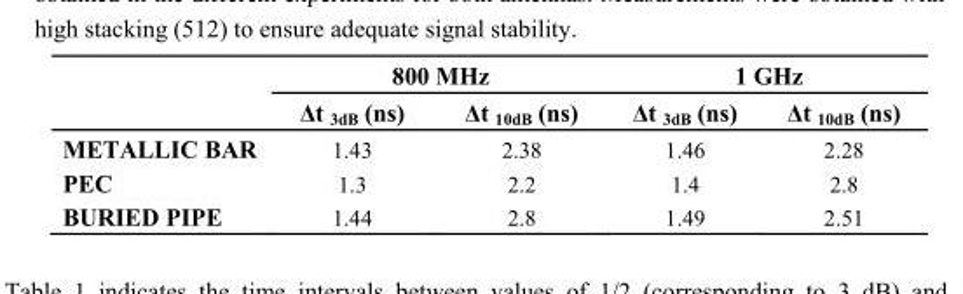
<table><thead><tr><td rowspan="2"></td><td colspan="2">800 MHz</td><td colspan="2">1 GHz</td></tr><tr><td>Δt <sub>3dB</sub> (ns)</td><td>Δt <sub>10dB</sub> (ns)</td><td>Δt <sub>3dB</sub> (ns)</td><td>Δt <sub>10dB</sub> (ns)</td></tr></thead><tbody><tr><td>METALLIC BAR</td><td>1.43</td><td>2.38</td><td>1.46</td><td>2.28</td></tr><tr><td>PEC</td><td>1.3</td><td>2.2</td><td>1.4</td><td>2.8</td></tr><tr><td>BURIED PIPE</td><td>1.44</td><td>2.8</td><td>1.49</td><td>2.51</td></tr></tbody></table>